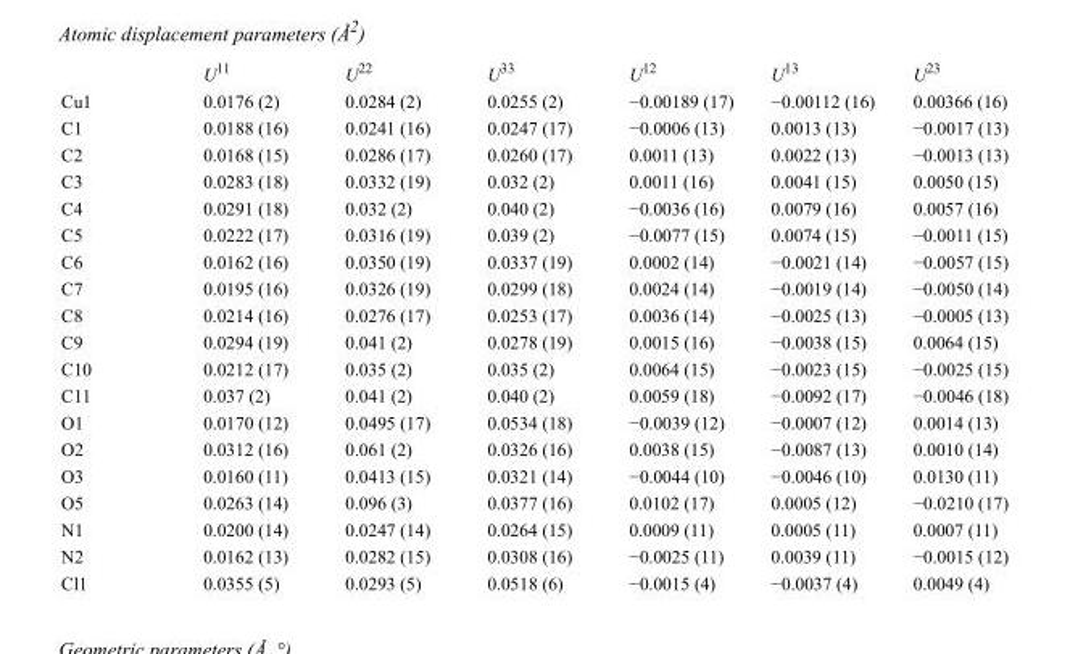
<table><thead><tr><td></td><td>U<sup>11</sup></td><td>U<sup>22</sup></td><td>U<sup>33</sup></td><td>U<sup>12</sup></td><td>U<sup>13</sup></td><td>U<sup>23</sup></td></tr></thead><tbody><tr><td>Cu1</td><td>0.0176 (2)</td><td>0.0284 (2)</td><td>0.0255 (2)</td><td>−0.00189 (17)</td><td>−0.00112 (16)</td><td>0.00366 (16)</td></tr><tr><td>C1</td><td>0.0188 (16)</td><td>0.0241 (16)</td><td>0.0247 (17)</td><td>−0.0006 (13)</td><td>0.0013 (13)</td><td>−0.0017 (13)</td></tr><tr><td>C2</td><td>0.0168 (15)</td><td>0.0286 (17)</td><td>0.0260 (17)</td><td>0.0011 (13)</td><td>0.0022 (13)</td><td>−0.0013 (13)</td></tr><tr><td>C3</td><td>0.0283 (18)</td><td>0.0332 (19)</td><td>0.032 (2)</td><td>0.0011 (16)</td><td>0.0041 (15)</td><td>0.0050 (15)</td></tr><tr><td>C4</td><td>0.0291 (18)</td><td>0.032 (2)</td><td>0.040 (2)</td><td>−0.0036 (16)</td><td>0.0079 (16)</td><td>0.0057 (16)</td></tr><tr><td>C5</td><td>0.0222 (17)</td><td>0.0316 (19)</td><td>0.039 (2)</td><td>−0.0077 (15)</td><td>0.0074 (15)</td><td>−0.0011 (15)</td></tr><tr><td>C6</td><td>0.0162 (16)</td><td>0.0350 (19)</td><td>0.0337 (19)</td><td>0.0002 (14)</td><td>−0.0021 (14)</td><td>−0.0057 (15)</td></tr><tr><td>C7</td><td>0.0195 (16)</td><td>0.0326 (19)</td><td>0.0299 (18)</td><td>0.0024 (14)</td><td>−0.0019 (14)</td><td>−0.0050 (14)</td></tr><tr><td>C8</td><td>0.0214 (16)</td><td>0.0276 (17)</td><td>0.0253 (17)</td><td>0.0036 (14)</td><td>−0.0025 (13)</td><td>−0.0005 (13)</td></tr><tr><td>C9</td><td>0.0294 (19)</td><td>0.041 (2)</td><td>0.0278 (19)</td><td>0.0015 (16)</td><td>−0.0038 (15)</td><td>0.0064 (15)</td></tr><tr><td>C10</td><td>0.0212 (17)</td><td>0.035 (2)</td><td>0.035 (2)</td><td>0.0064 (15)</td><td>−0.0023 (15)</td><td>−0.0025 (15)</td></tr><tr><td>C11</td><td>0.037 (2)</td><td>0.041 (2)</td><td>0.040 (2)</td><td>0.0059 (18)</td><td>−0.0092 (17)</td><td>−0.0046 (18)</td></tr><tr><td>O1</td><td>0.0170 (12)</td><td>0.0495 (17)</td><td>0.0534 (18)</td><td>−0.0039 (12)</td><td>−0.0007 (12)</td><td>0.0014 (13)</td></tr><tr><td>O2</td><td>0.0312 (16)</td><td>0.061 (2)</td><td>0.0326 (16)</td><td>0.0038 (15)</td><td>−0.0087 (13)</td><td>0.0010 (14)</td></tr><tr><td>O3</td><td>0.0160 (11)</td><td>0.0413 (15)</td><td>0.0321 (14)</td><td>−0.0044 (10)</td><td>−0.0046 (10)</td><td>0.0130 (11)</td></tr><tr><td>O5</td><td>0.0263 (14)</td><td>0.096 (3)</td><td>0.0377 (16)</td><td>0.0102 (17)</td><td>0.0005 (12)</td><td>−0.0210 (17)</td></tr><tr><td>N1</td><td>0.0200 (14)</td><td>0.0247 (14)</td><td>0.0264 (15)</td><td>0.0009 (11)</td><td>0.0005 (11)</td><td>0.0007 (11)</td></tr><tr><td>N2</td><td>0.0162 (13)</td><td>0.0282 (15)</td><td>0.0308 (16)</td><td>−0.0025 (11)</td><td>0.0039 (11)</td><td>−0.0015 (12)</td></tr><tr><td>Cl1</td><td>0.0355 (5)</td><td>0.0293 (5)</td><td>0.0518 (6)</td><td>−0.0015 (4)</td><td>−0.0037 (4)</td><td>0.0049 (4)</td></tr></tbody></table>